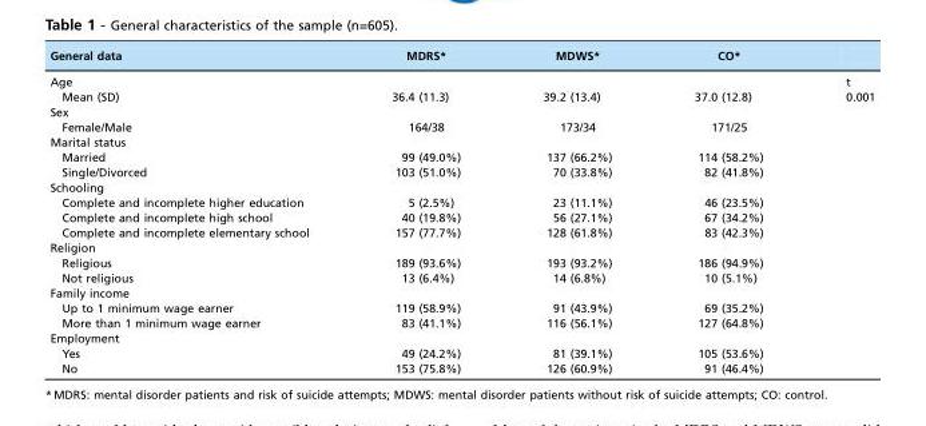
<table><thead><tr><td>General data</td><td>MDRS*</td><td>MDWS*</td><td>CO*</td><td></td></tr></thead><tbody><tr><td>Age</td><td></td><td></td><td></td><td>t</td></tr><tr><td>Mean (SD)</td><td>36.4 (11.3)</td><td>39.2 (13.4)</td><td>37.0 (12.8)</td><td>0.001</td></tr><tr><td colspan="5">Sex</td></tr><tr><td>Female/Male</td><td>164/38</td><td>173/34</td><td>171/25</td><td></td></tr><tr><td colspan="5">Marital status</td></tr><tr><td>Married</td><td>99 (49.0%)</td><td>137 (66.2%)</td><td>114 (58.2%)</td><td></td></tr><tr><td>Single/Divorced</td><td>103 (51.0%)</td><td>70 (33.8%)</td><td>82 (41.8%)</td><td></td></tr><tr><td colspan="5">Schooling</td></tr><tr><td>Complete and incomplete higher education</td><td>5 (2.5%)</td><td>23 (11.1%)</td><td>46 (23.5%)</td><td></td></tr><tr><td>Complete and incomplete high school</td><td>40 (19.8%)</td><td>56 (27.1%)</td><td>67 (34.2%)</td><td></td></tr><tr><td>Complete and incomplete elementary school</td><td>157 (77.7%)</td><td>128 (61.8%)</td><td>83 (42.3%)</td><td></td></tr><tr><td colspan="5">Religion</td></tr><tr><td>Religious</td><td>189 (93.6%)</td><td>193 (93.2%)</td><td>186 (94.9%)</td><td></td></tr><tr><td>Not religious</td><td>13 (6.4%)</td><td>14 (6.8%)</td><td>10 (5.1%)</td><td></td></tr><tr><td colspan="5">Family income</td></tr><tr><td>Up to 1 minimum wage earner</td><td>119 (58.9%)</td><td>91 (43.9%)</td><td>69 (35.2%)</td><td></td></tr><tr><td>More than 1 minimum wage earner</td><td>83 (41.1%)</td><td>116 (56.1%)</td><td>127 (64.8%)</td><td></td></tr><tr><td colspan="5">Employment</td></tr><tr><td>Yes</td><td>49 (24.2%)</td><td>81 (39.1%)</td><td>105 (53.6%)</td><td></td></tr><tr><td>No</td><td>153 (75.8%)</td><td>126 (60.9%)</td><td>91 (46.4%)</td><td></td></tr></tbody></table>